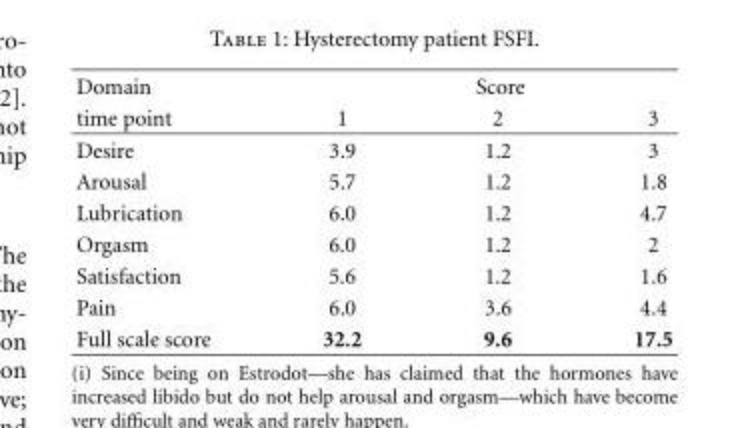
<table><thead><tr><td rowspan="2">Domain time point</td><td colspan="3">Score</td></tr><tr><td>1</td><td>2</td><td>3</td></tr></thead><tbody><tr><td>Desire</td><td>3.9</td><td>1.2</td><td>3</td></tr><tr><td>Arousal</td><td>5.7</td><td>1.2</td><td>1.8</td></tr><tr><td>Lubrication</td><td>6.0</td><td>1.2</td><td>4.7</td></tr><tr><td>Orgasm</td><td>6.0</td><td>1.2</td><td>2</td></tr><tr><td>Satisfaction</td><td>5.6</td><td>1.2</td><td>1.6</td></tr><tr><td>Pain</td><td>6.0</td><td>3.6</td><td>4.4</td></tr><tr><td>Full scale score</td><td>32.2</td><td>9.6</td><td>17.5</td></tr></tbody></table>